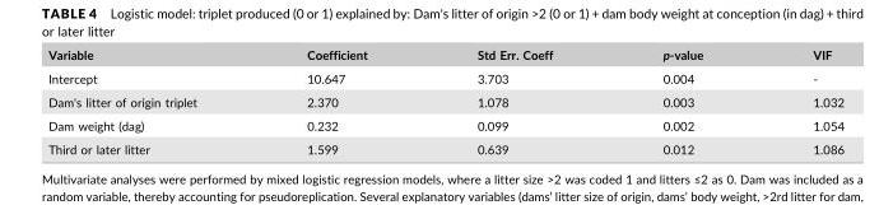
<table><thead><tr><td>Variable</td><td>Coefficient</td><td>Std Err. Coeff</td><td>p-value</td><td>VIF</td></tr></thead><tbody><tr><td>Intercept</td><td>10.647</td><td>3.703</td><td>0.004</td><td>-</td></tr><tr><td>Dam&#x27;s litter of origin triplet</td><td>2.370</td><td>1.078</td><td>0.003</td><td>1.032</td></tr><tr><td>Dam weight (dag)</td><td>0.232</td><td>0.099</td><td>0.002</td><td>1.054</td></tr><tr><td>Third or later litter</td><td>1.599</td><td>0.639</td><td>0.012</td><td>1.086</td></tr></tbody></table>